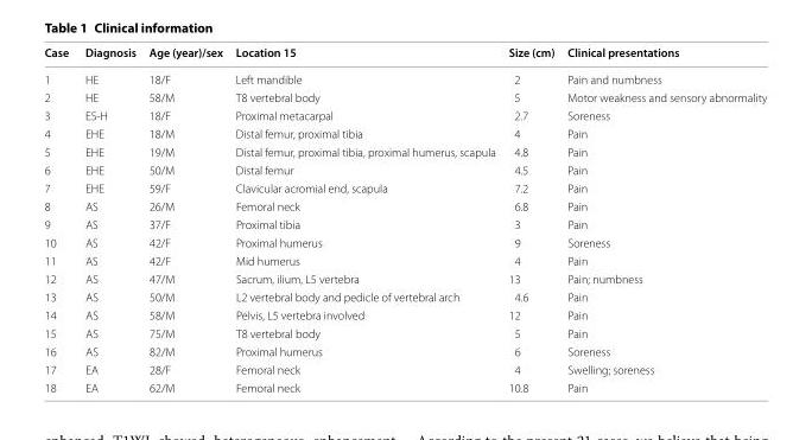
<table><thead><tr><td>Case</td><td>Diagnosis</td><td>Age (year)/sex</td><td>Location 15</td><td>Size (cm)</td><td>Clinical presentations</td></tr></thead><tbody><tr><td>1</td><td>HE</td><td>18/F</td><td>Left mandible</td><td>2</td><td>Pain and numbness</td></tr><tr><td>2</td><td>HE</td><td>58/M</td><td>T8 vertebral body</td><td>5</td><td>Motor weakness and sensory abnormality</td></tr><tr><td>3</td><td>ES‑H</td><td>18/F</td><td>Proximal metacarpal</td><td>2.7</td><td>Soreness</td></tr><tr><td>4</td><td>EHE</td><td>18/M</td><td>Distal femur, proximal tibia</td><td>4</td><td>Pain</td></tr><tr><td>5</td><td>EHE</td><td>19/M</td><td>Distal femur, proximal tibia, proximal humerus, scapula</td><td>4.8</td><td>Pain</td></tr><tr><td>6</td><td>EHE</td><td>50/M</td><td>Distal femur</td><td>4.5</td><td>Pain</td></tr><tr><td>7</td><td>EHE</td><td>59/F</td><td>Clavicular acromial end, scapula</td><td>7.2</td><td>Pain</td></tr><tr><td>8</td><td>AS</td><td>26/M</td><td>Femoral neck</td><td>6.8</td><td>Pain</td></tr><tr><td>9</td><td>AS</td><td>37/F</td><td>Proximal tibia</td><td>3</td><td>Pain</td></tr><tr><td>10</td><td>AS</td><td>42/F</td><td>Proximal humerus</td><td>9</td><td>Soreness</td></tr><tr><td>11</td><td>AS</td><td>42/F</td><td>Mid humerus</td><td>4</td><td>Pain</td></tr><tr><td>12</td><td>AS</td><td>47/M</td><td>Sacrum, ilium, L5 vertebra</td><td>13</td><td>Pain; numbness</td></tr><tr><td>13</td><td>AS</td><td>50/M</td><td>L2 vertebral body and pedicle of vertebral arch</td><td>4.6</td><td>Pain</td></tr><tr><td>14</td><td>AS</td><td>58/M</td><td>Pelvis, L5 vertebra involved</td><td>12</td><td>Pain</td></tr><tr><td>15</td><td>AS</td><td>75/M</td><td>T8 vertebral body</td><td>5</td><td>Pain</td></tr><tr><td>16</td><td>AS</td><td>82/M</td><td>Proximal humerus</td><td>6</td><td>Soreness</td></tr><tr><td>17</td><td>EA</td><td>28/F</td><td>Femoral neck</td><td>4</td><td>Swelling; soreness</td></tr><tr><td>18</td><td>EA</td><td>62/M</td><td>Femoral neck</td><td>10.8</td><td>Pain</td></tr></tbody></table>